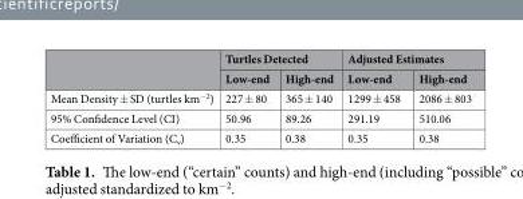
<table><thead><tr><td rowspan="2"></td><td colspan="2">Turtles Detected</td><td colspan="2">Adjusted Estimates</td></tr><tr><td>Low-end</td><td>High-end</td><td>Low-end</td><td>High-end</td></tr></thead><tbody><tr><td>Mean Density ± SD (turtles km<sup>−2</sup>)</td><td>227 ± 80</td><td>365 ± 140</td><td>1299 ± 458</td><td>2086 ± 803</td></tr><tr><td>95% Confidence Level (CI)</td><td>50.96</td><td>89.26</td><td>291.19</td><td>510.06</td></tr><tr><td>Coefficient of Variation (C<sub>v</sub>)</td><td>0.35</td><td>0.38</td><td>0.35</td><td>0.38</td></tr></tbody></table>